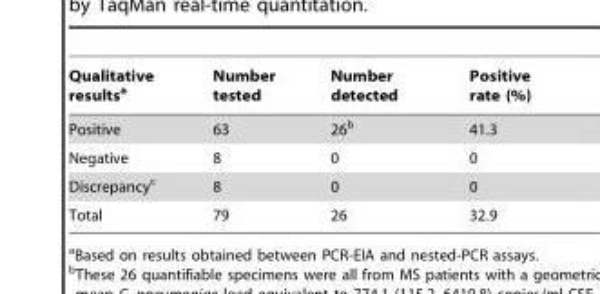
<table><thead><tr><td>Qualitative results<sup>a</sup></td><td>Number tested</td><td>Number detected</td><td>Positive rate (%)</td></tr></thead><tbody><tr><td>Positive</td><td>63</td><td>26<sup>b</sup></td><td>41.3</td></tr><tr><td>Negative</td><td>8</td><td>0</td><td>0</td></tr><tr><td>Discrepancy<sup>c</sup></td><td>8</td><td>0</td><td>0</td></tr><tr><td>Total</td><td>79</td><td>26</td><td>32.9</td></tr></tbody></table>